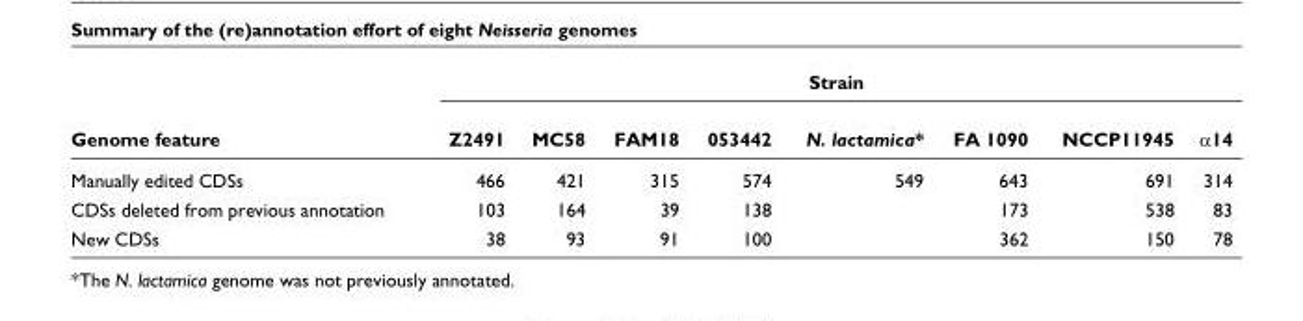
<table><thead><tr><td rowspan="2">Genome feature</td><td colspan="8">Strain</td></tr><tr><td>Z2491</td><td>MC58</td><td>FAM18</td><td>053442</td><td>N. lactamica*</td><td>FA 1090</td><td>NCCP11945</td><td>α14</td></tr></thead><tbody><tr><td>Manually edited CDSs</td><td>466</td><td>421</td><td>315</td><td>574</td><td>549</td><td>643</td><td>691</td><td>314</td></tr><tr><td>CDSs deleted from previous annotation</td><td>103</td><td>164</td><td>39</td><td>138</td><td></td><td>173</td><td>538</td><td>83</td></tr><tr><td>New CDSs</td><td>38</td><td>93</td><td>91</td><td>100</td><td></td><td>362</td><td>150</td><td>78</td></tr></tbody></table>